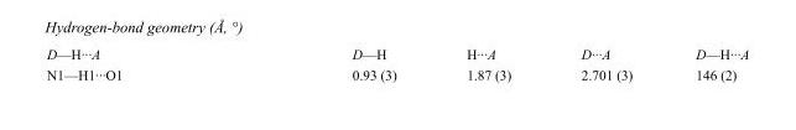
<table><tbody><tr><td>D—H···A</td><td>D—H</td><td>H···A</td><td>D···A</td><td>D—H···A</td></tr><tr><td>N1—H1···O1</td><td>0.93 (3)</td><td>1.87 (3)</td><td>2.701 (3)</td><td>146 (2)</td></tr></tbody></table>